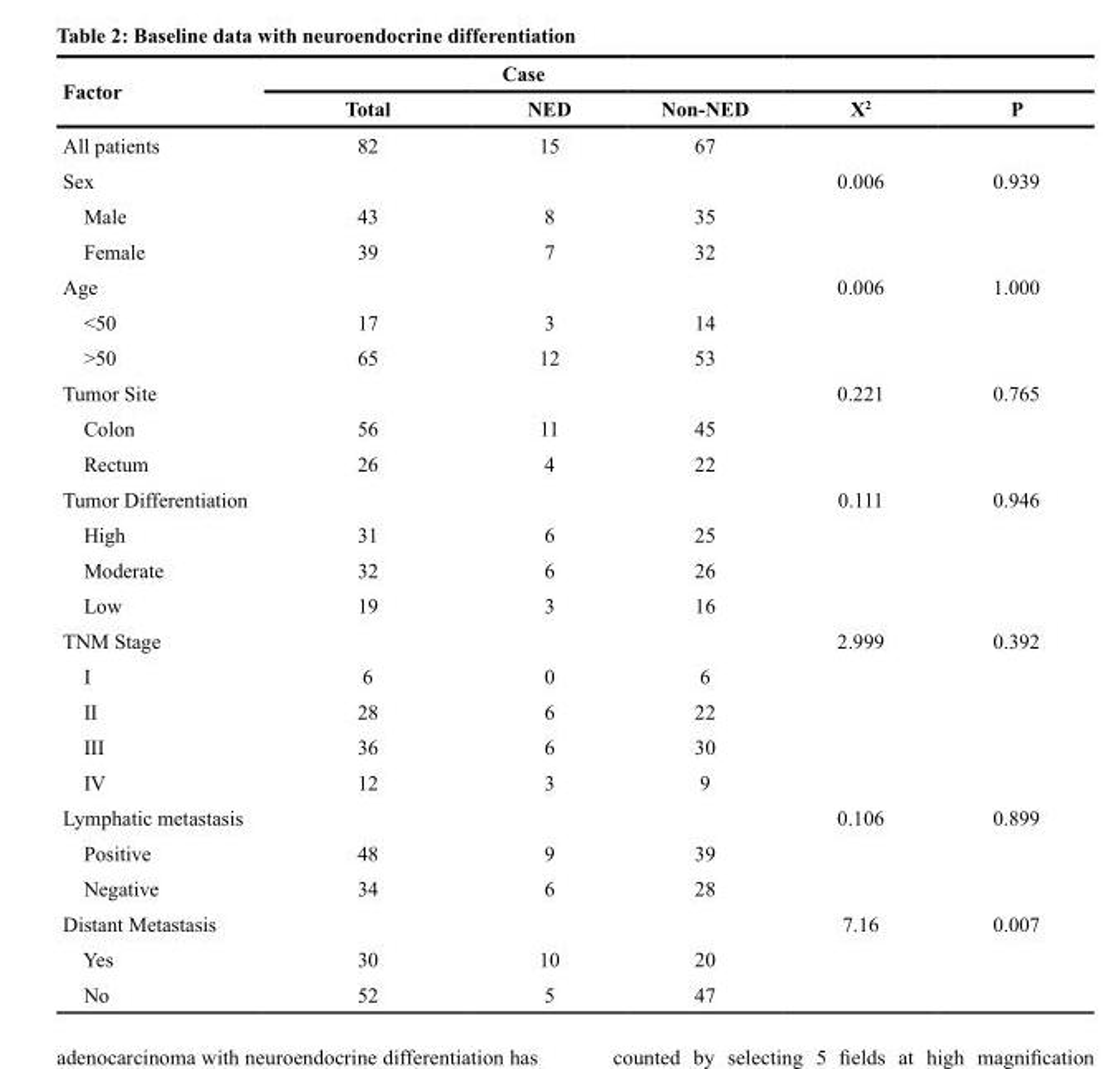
<table><thead><tr><td rowspan="2">Factor</td><td colspan="3">Case</td><td rowspan="2">X<sup>2</sup></td><td rowspan="2">P</td></tr><tr><td>Total</td><td>NED</td><td>Non-NED</td></tr></thead><tbody><tr><td>All patients</td><td>82</td><td>15</td><td>67</td><td></td><td></td></tr><tr><td>Sex</td><td></td><td></td><td></td><td>0.006</td><td>0.939</td></tr><tr><td>Male</td><td>43</td><td>8</td><td>35</td><td></td><td></td></tr><tr><td>Female</td><td>39</td><td>7</td><td>32</td><td></td><td></td></tr><tr><td>Age</td><td></td><td></td><td></td><td>0.006</td><td>1.000</td></tr><tr><td>&lt;50</td><td>17</td><td>3</td><td>14</td><td></td><td></td></tr><tr><td>&gt;50</td><td>65</td><td>12</td><td>53</td><td></td><td></td></tr><tr><td>Tumor Site</td><td></td><td></td><td></td><td>0.221</td><td>0.765</td></tr><tr><td>Colon</td><td>56</td><td>11</td><td>45</td><td></td><td></td></tr><tr><td>Rectum</td><td>26</td><td>4</td><td>22</td><td></td><td></td></tr><tr><td>Tumor Differentiation</td><td></td><td></td><td></td><td>0.111</td><td>0.946</td></tr><tr><td>High</td><td>31</td><td>6</td><td>25</td><td></td><td></td></tr><tr><td>Moderate</td><td>32</td><td>6</td><td>26</td><td></td><td></td></tr><tr><td>Low</td><td>19</td><td>3</td><td>16</td><td></td><td></td></tr><tr><td>TNM Stage</td><td></td><td></td><td></td><td>2.999</td><td>0.392</td></tr><tr><td>I</td><td>6</td><td>0</td><td>6</td><td></td><td></td></tr><tr><td>II</td><td>28</td><td>6</td><td>22</td><td></td><td></td></tr><tr><td>III</td><td>36</td><td>6</td><td>30</td><td></td><td></td></tr><tr><td>IV</td><td>12</td><td>3</td><td>9</td><td></td><td></td></tr><tr><td>Lymphatic metastasis</td><td></td><td></td><td></td><td>0.106</td><td>0.899</td></tr><tr><td>Positive</td><td>48</td><td>9</td><td>39</td><td></td><td></td></tr><tr><td>Negative</td><td>34</td><td>6</td><td>28</td><td></td><td></td></tr><tr><td>Distant Metastasis</td><td></td><td></td><td></td><td>7.16</td><td>0.007</td></tr><tr><td>Yes</td><td>30</td><td>10</td><td>20</td><td></td><td></td></tr><tr><td>No</td><td>52</td><td>5</td><td>47</td><td></td><td></td></tr></tbody></table>